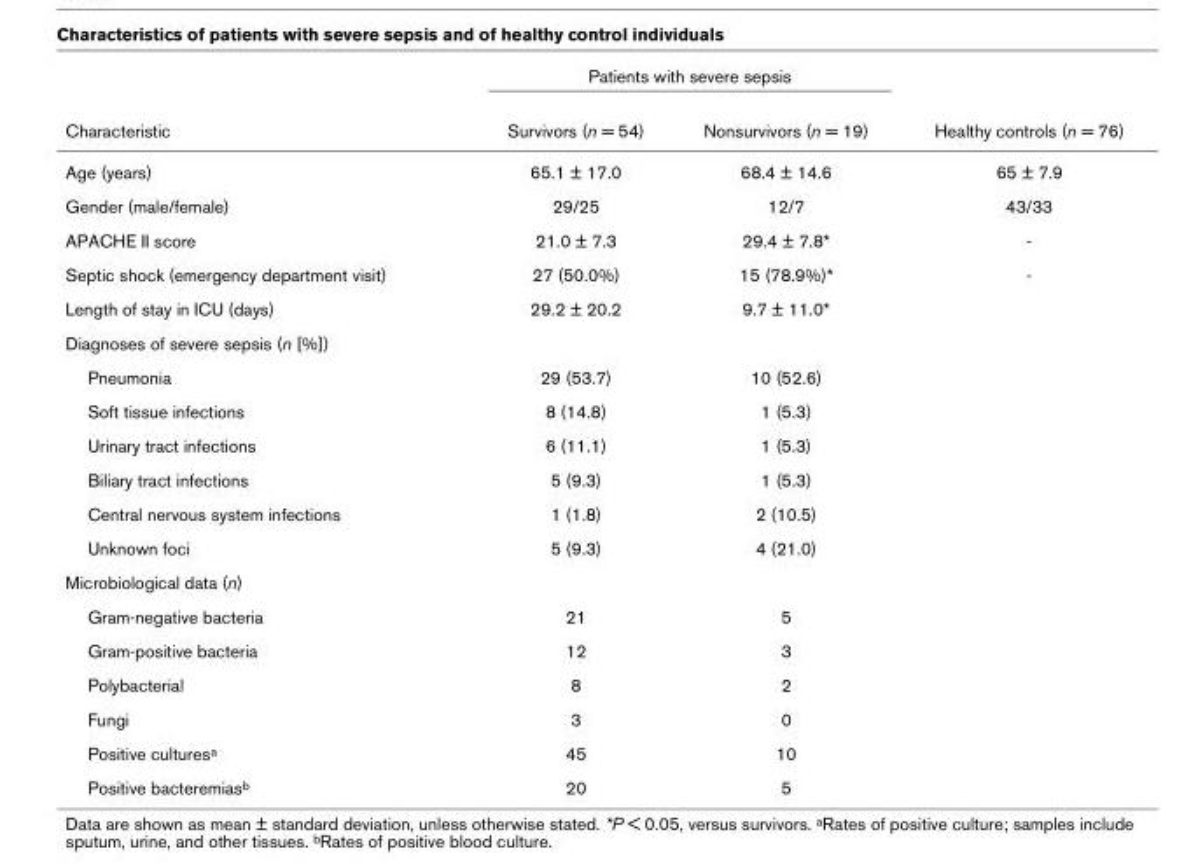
<table><thead><tr><td rowspan="2">Characteristic</td><td colspan="2">Patients with severe sepsis</td><td rowspan="2">Healthy controls (n = 76)</td></tr><tr><td>Survivors (n = 54)</td><td>Nonsurvivors (n = 19)</td></tr></thead><tbody><tr><td>Age (years)</td><td>65.1 ± 17.0</td><td>68.4 ± 14.6</td><td>65 ± 7.9</td></tr><tr><td>Gender (male/female)</td><td>29/25</td><td>12/7</td><td>43/33</td></tr><tr><td>APACHE II score</td><td>21.0 ± 7.3</td><td>29.4 ± 7.8*</td><td>-</td></tr><tr><td>Septic shock (emergency department visit)</td><td>27 (50.0%)</td><td>15 (78.9%)*</td><td>-</td></tr><tr><td>Length of stay in ICU (days)</td><td>29.2 ± 20.2</td><td>9.7 ± 11.0*</td><td></td></tr><tr><td colspan="4">Diagnoses of severe sepsis (n [%])</td></tr><tr><td>Pneumonia</td><td>29 (53.7)</td><td>10 (52.6)</td><td></td></tr><tr><td>Soft tissue infections</td><td>8 (14.8)</td><td>1 (5.3)</td><td></td></tr><tr><td>Urinary tract infections</td><td>6 (11.1)</td><td>1 (5.3)</td><td></td></tr><tr><td>Biliary tract infections</td><td>5 (9.3)</td><td>1 (5.3)</td><td></td></tr><tr><td>Central nervous system infections</td><td>1 (1.8)</td><td>2 (10.5)</td><td></td></tr><tr><td>Unknown foci</td><td>5 (9.3)</td><td>4 (21.0)</td><td></td></tr><tr><td colspan="4">Microbiological data (n)</td></tr><tr><td>Gram-negative bacteria</td><td>21</td><td>5</td><td></td></tr><tr><td>Gram-positive bacteria</td><td>12</td><td>3</td><td></td></tr><tr><td>Polybacterial</td><td>8</td><td>2</td><td></td></tr><tr><td>Fungi</td><td>3</td><td>0</td><td></td></tr><tr><td>Positive culturesa</td><td>45</td><td>10</td><td></td></tr><tr><td>Positive bacteremiasb</td><td>20</td><td>5</td><td></td></tr></tbody></table>